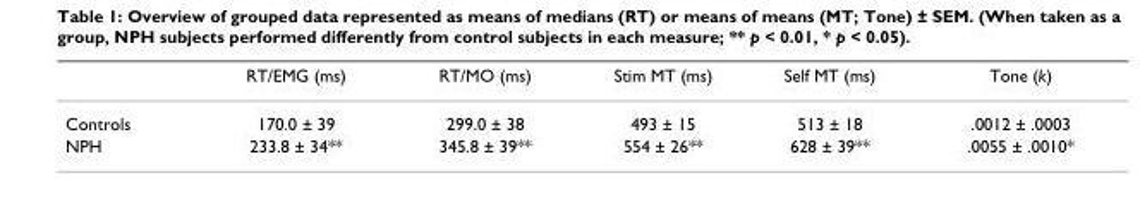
<table><thead><tr><td></td><td>RT/EMG (ms)</td><td>RT/MO (ms)</td><td>Stim MT (ms)</td><td>Self MT (ms)</td><td>Tone (k)</td></tr></thead><tbody><tr><td>Controls</td><td>170.0 ± 39</td><td>299.0 ± 38</td><td>493 ± 15</td><td>513 ± 18</td><td>.0012 ± .0003</td></tr><tr><td>NPH</td><td>233.8 ± 34**</td><td>345.8 ± 39**</td><td>554 ± 26**</td><td>628 ± 39**</td><td>.0055 ± .0010*</td></tr></tbody></table>